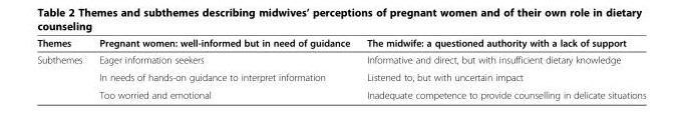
<table><thead><tr><td>Themes</td><td>Pregnant women: well-informed but in need of guidance</td><td>The midwife: a questioned authority with a lack of support</td></tr></thead><tbody><tr><td rowspan="3">Subthemes</td><td>Eager information seekers</td><td>Informative and direct, but with insufficient dietary knowledge</td></tr><tr><td>In needs of hands-on guidance to interpret information</td><td>Listened to, but with uncertain impact</td></tr><tr><td>Too worried and emotional</td><td>Inadequate competence to provide counselling in delicate situations</td></tr></tbody></table>